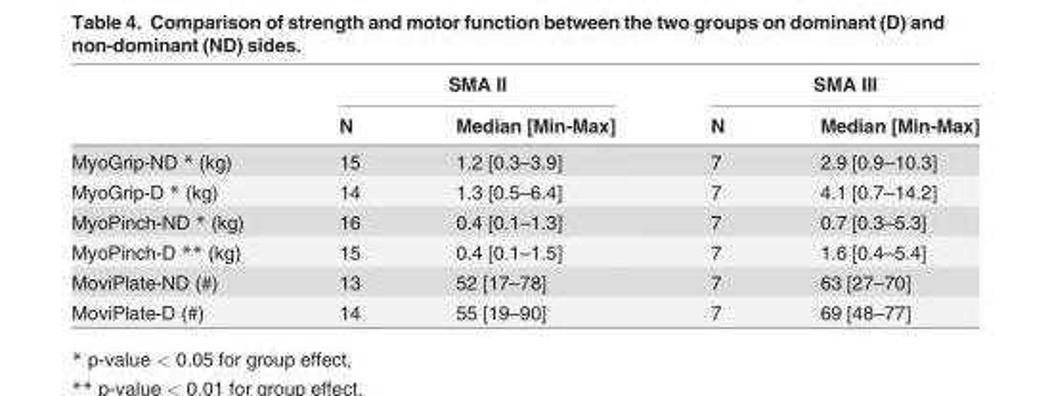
<table><thead><tr><td rowspan="2"></td><td colspan="2">SMA II</td><td colspan="2">SMA III</td></tr><tr><td>N</td><td>Median [Min-Max]</td><td>N</td><td>Median [Min-Max]</td></tr></thead><tbody><tr><td>MyoGrip-ND * (kg)</td><td>15</td><td>1.2 [0.3–3.9]</td><td>7</td><td>2.9 [0.9–10.3]</td></tr><tr><td>MyoGrip-D * (kg)</td><td>14</td><td>1.3 [0.5–6.4]</td><td>7</td><td>4.1 [0.7–14.2]</td></tr><tr><td>MyoPinch-ND * (kg)</td><td>16</td><td>0.4 [0.1–1.3]</td><td>7</td><td>0.7 [0.3–5.3]</td></tr><tr><td>MyoPinch-D ** (kg)</td><td>15</td><td>0.4 [0.1–1.5]</td><td>7</td><td>1.6 [0.4–5.4]</td></tr><tr><td>MoviPlate-ND (#)</td><td>13</td><td>52 [17–78]</td><td>7</td><td>63 [27–70]</td></tr><tr><td>MoviPlate-D (#)</td><td>14</td><td>55 [19–90]</td><td>7</td><td>69 [48–77]</td></tr></tbody></table>